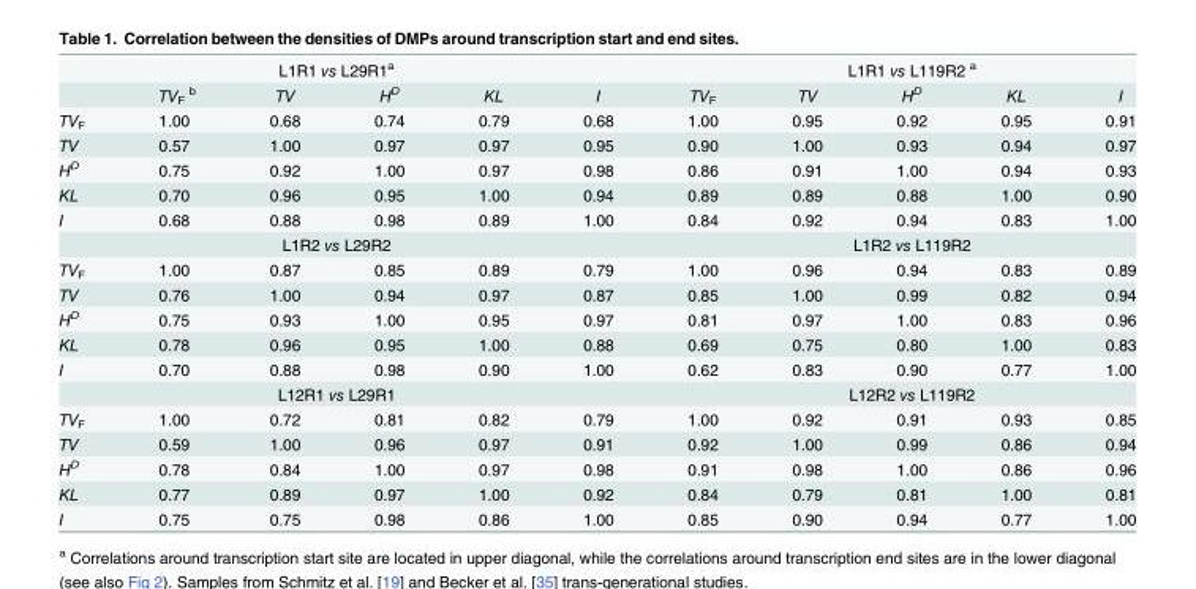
<table><tbody><tr><td colspan="6">L1R1 vs L29R1<sup>a</sup></td><td colspan="5">L1R1 vs L119R2 <sup>a</sup></td></tr><tr><td></td><td>TV<sub>F</sub> <sup>b</sup></td><td>TV</td><td>H<sup>D</sup></td><td>KL</td><td>I</td><td>TV<sub>F</sub></td><td>TV</td><td>H<sup>D</sup></td><td>KL</td><td>I</td></tr><tr><td>TV<sub>F</sub></td><td>1.00</td><td>0.68</td><td>0.74</td><td>0.79</td><td>0.68</td><td>1.00</td><td>0.95</td><td>0.92</td><td>0.95</td><td>0.91</td></tr><tr><td>TV</td><td>0.57</td><td>1.00</td><td>0.97</td><td>0.97</td><td>0.95</td><td>0.90</td><td>1.00</td><td>0.93</td><td>0.94</td><td>0.97</td></tr><tr><td>H<sup>D</sup></td><td>0.75</td><td>0.92</td><td>1.00</td><td>0.97</td><td>0.98</td><td>0.86</td><td>0.91</td><td>1.00</td><td>0.94</td><td>0.93</td></tr><tr><td>KL</td><td>0.70</td><td>0.96</td><td>0.95</td><td>1.00</td><td>0.94</td><td>0.89</td><td>0.89</td><td>0.88</td><td>1.00</td><td>0.90</td></tr><tr><td>I</td><td>0.68</td><td>0.88</td><td>0.98</td><td>0.89</td><td>1.00</td><td>0.84</td><td>0.92</td><td>0.94</td><td>0.83</td><td>1.00</td></tr><tr><td colspan="6">L1R2 vs L29R2</td><td colspan="5">L1R2 vs L119R2</td></tr><tr><td>TV<sub>F</sub></td><td>1.00</td><td>0.87</td><td>0.85</td><td>0.89</td><td>0.79</td><td>1.00</td><td>0.96</td><td>0.94</td><td>0.83</td><td>0.89</td></tr><tr><td>TV</td><td>0.76</td><td>1.00</td><td>0.94</td><td>0.97</td><td>0.87</td><td>0.85</td><td>1.00</td><td>0.99</td><td>0.82</td><td>0.94</td></tr><tr><td>H<sup>D</sup></td><td>0.75</td><td>0.93</td><td>1.00</td><td>0.95</td><td>0.97</td><td>0.81</td><td>0.97</td><td>1.00</td><td>0.83</td><td>0.96</td></tr><tr><td>KL</td><td>0.78</td><td>0.96</td><td>0.95</td><td>1.00</td><td>0.88</td><td>0.69</td><td>0.75</td><td>0.80</td><td>1.00</td><td>0.83</td></tr><tr><td>I</td><td>0.70</td><td>0.88</td><td>0.98</td><td>0.90</td><td>1.00</td><td>0.62</td><td>0.83</td><td>0.90</td><td>0.77</td><td>1.00</td></tr><tr><td colspan="6">L12R1 vs L29R1</td><td colspan="5">L12R2 vs L119R2</td></tr><tr><td>TV<sub>F</sub></td><td>1.00</td><td>0.72</td><td>0.81</td><td>0.82</td><td>0.79</td><td>1.00</td><td>0.92</td><td>0.91</td><td>0.93</td><td>0.85</td></tr><tr><td>TV</td><td>0.59</td><td>1.00</td><td>0.96</td><td>0.97</td><td>0.91</td><td>0.92</td><td>1.00</td><td>0.99</td><td>0.86</td><td>0.94</td></tr><tr><td>H<sup>D</sup></td><td>0.78</td><td>0.84</td><td>1.00</td><td>0.97</td><td>0.98</td><td>0.91</td><td>0.98</td><td>1.00</td><td>0.86</td><td>0.96</td></tr><tr><td>KL</td><td>0.77</td><td>0.89</td><td>0.97</td><td>1.00</td><td>0.92</td><td>0.84</td><td>0.79</td><td>0.81</td><td>1.00</td><td>0.81</td></tr><tr><td>I</td><td>0.75</td><td>0.75</td><td>0.98</td><td>0.86</td><td>1.00</td><td>0.85</td><td>0.90</td><td>0.94</td><td>0.77</td><td>1.00</td></tr></tbody></table>